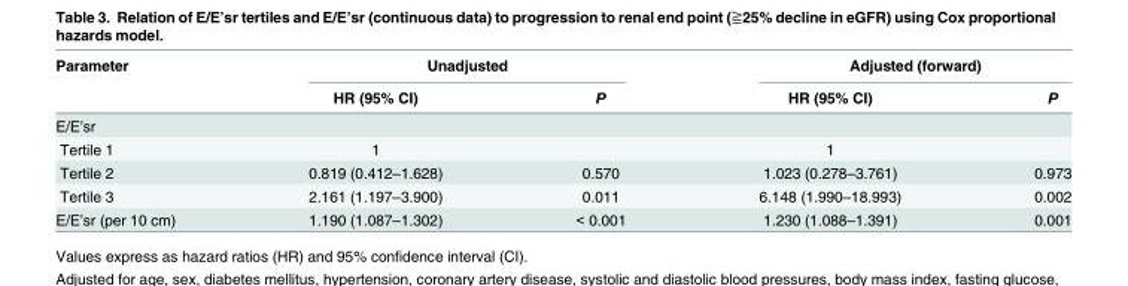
<table><thead><tr><td rowspan="2">Parameter</td><td colspan="2">Unadjusted</td><td colspan="2">Adjusted (forward)</td></tr><tr><td>HR (95% CI)</td><td>P</td><td>HR (95% CI)</td><td>P</td></tr></thead><tbody><tr><td colspan="5">E/E’sr</td></tr><tr><td>Tertile 1</td><td>1</td><td></td><td>1</td><td></td></tr><tr><td>Tertile 2</td><td>0.819 (0.412–1.628)</td><td>0.570</td><td>1.023 (0.278–3.761)</td><td>0.973</td></tr><tr><td>Tertile 3</td><td>2.161 (1.197–3.900)</td><td>0.011</td><td>6.148 (1.990–18.993)</td><td>0.002</td></tr><tr><td>E/E’sr (per 10 cm)</td><td>1.190 (1.087–1.302)</td><td>&lt; 0.001</td><td>1.230 (1.088–1.391)</td><td>0.001</td></tr></tbody></table>